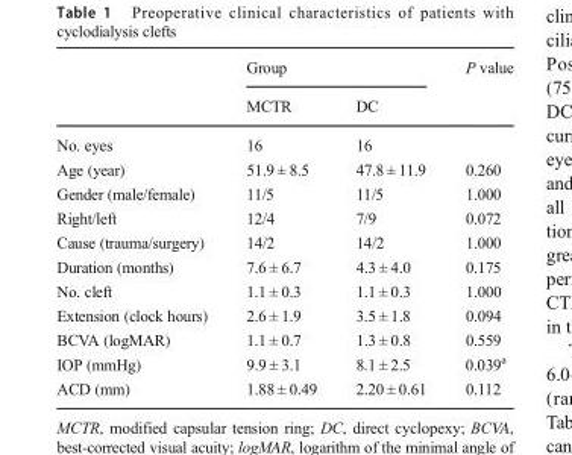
<table><thead><tr><td rowspan="2"></td><td colspan="2">Group</td><td rowspan="2">P value</td></tr><tr><td>MCTR</td><td>DC</td></tr></thead><tbody><tr><td>No. eyes</td><td>16</td><td>16</td><td></td></tr><tr><td>Age (year)</td><td>51.9 ± 8.5</td><td>47.8 ± 11.9</td><td>0.260</td></tr><tr><td>Gender (male/female)</td><td>11/5</td><td>11/5</td><td>1.000</td></tr><tr><td>Right/left</td><td>12/4</td><td>7/9</td><td>0.072</td></tr><tr><td>Cause (trauma/surgery)</td><td>14/2</td><td>14/2</td><td>1.000</td></tr><tr><td>Duration (months)</td><td>7.6 ± 6.7</td><td>4.3 ± 4.0</td><td>0.175</td></tr><tr><td>No. cleft</td><td>1.1 ± 0.3</td><td>1.1 ± 0.3</td><td>1.000</td></tr><tr><td>Extension (clock hours)</td><td>2.6 ± 1.9</td><td>3.5 ± 1.8</td><td>0.094</td></tr><tr><td>BCVA (logMAR)</td><td>1.1 ± 0.7</td><td>1.3 ± 0.8</td><td>0.559</td></tr><tr><td>IOP (mmHg)</td><td>9.9 ± 3.1</td><td>8.1 ± 2.5</td><td>0.039<sup>a</sup></td></tr><tr><td>ACD (mm)</td><td>1.88 ± 0.49</td><td>2.20 ± 0.61</td><td>0.112</td></tr></tbody></table>